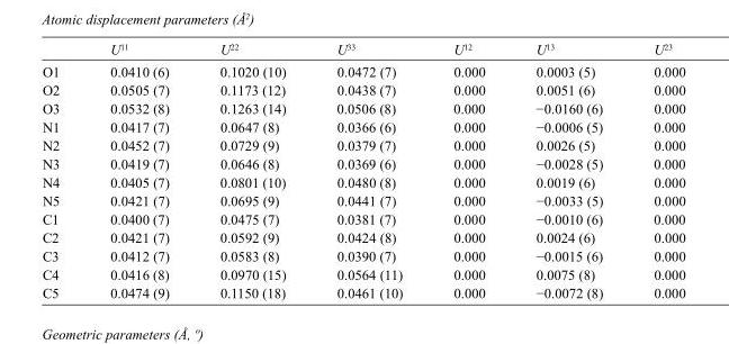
<table><thead><tr><td></td><td>U<sup>11</sup></td><td>U<sup>22</sup></td><td>U<sup>33</sup></td><td>U<sup>12</sup></td><td>U<sup>13</sup></td><td>U<sup>23</sup></td></tr></thead><tbody><tr><td>O1</td><td>0.0410 (6)</td><td>0.1020 (10)</td><td>0.0472 (7)</td><td>0.000</td><td>0.0003 (5)</td><td>0.000</td></tr><tr><td>O2</td><td>0.0505 (7)</td><td>0.1173 (12)</td><td>0.0438 (7)</td><td>0.000</td><td>0.0051 (6)</td><td>0.000</td></tr><tr><td>O3</td><td>0.0532 (8)</td><td>0.1263 (14)</td><td>0.0506 (8)</td><td>0.000</td><td>−0.0160 (6)</td><td>0.000</td></tr><tr><td>N1</td><td>0.0417 (7)</td><td>0.0647 (8)</td><td>0.0366 (6)</td><td>0.000</td><td>−0.0006 (5)</td><td>0.000</td></tr><tr><td>N2</td><td>0.0452 (7)</td><td>0.0729 (9)</td><td>0.0379 (7)</td><td>0.000</td><td>0.0026 (5)</td><td>0.000</td></tr><tr><td>N3</td><td>0.0419 (7)</td><td>0.0646 (8)</td><td>0.0369 (6)</td><td>0.000</td><td>−0.0028 (5)</td><td>0.000</td></tr><tr><td>N4</td><td>0.0405 (7)</td><td>0.0801 (10)</td><td>0.0480 (8)</td><td>0.000</td><td>0.0019 (6)</td><td>0.000</td></tr><tr><td>N5</td><td>0.0421 (7)</td><td>0.0695 (9)</td><td>0.0441 (7)</td><td>0.000</td><td>−0.0033 (5)</td><td>0.000</td></tr><tr><td>C1</td><td>0.0400 (7)</td><td>0.0475 (7)</td><td>0.0381 (7)</td><td>0.000</td><td>−0.0010 (6)</td><td>0.000</td></tr><tr><td>C2</td><td>0.0421 (7)</td><td>0.0592 (9)</td><td>0.0424 (8)</td><td>0.000</td><td>0.0024 (6)</td><td>0.000</td></tr><tr><td>C3</td><td>0.0412 (7)</td><td>0.0583 (8)</td><td>0.0390 (7)</td><td>0.000</td><td>−0.0015 (6)</td><td>0.000</td></tr><tr><td>C4</td><td>0.0416 (8)</td><td>0.0970 (15)</td><td>0.0564 (11)</td><td>0.000</td><td>0.0075 (8)</td><td>0.000</td></tr><tr><td>C5</td><td>0.0474 (9)</td><td>0.1150 (18)</td><td>0.0461 (10)</td><td>0.000</td><td>−0.0072 (8)</td><td>0.000</td></tr></tbody></table>